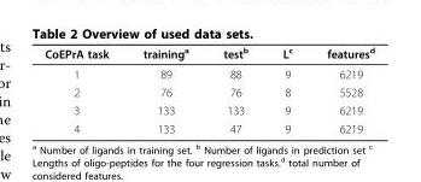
<table><thead><tr><td>CoEPrA task</td><td>training<sup>a</sup></td><td>test<sup>b</sup></td><td>L<sup>c</sup></td><td>features<sup>d</sup></td></tr></thead><tbody><tr><td>1</td><td>89</td><td>88</td><td>9</td><td>6219</td></tr><tr><td>2</td><td>76</td><td>76</td><td>8</td><td>5528</td></tr><tr><td>3</td><td>133</td><td>133</td><td>9</td><td>6219</td></tr><tr><td>4</td><td>133</td><td>47</td><td>9</td><td>6219</td></tr></tbody></table>